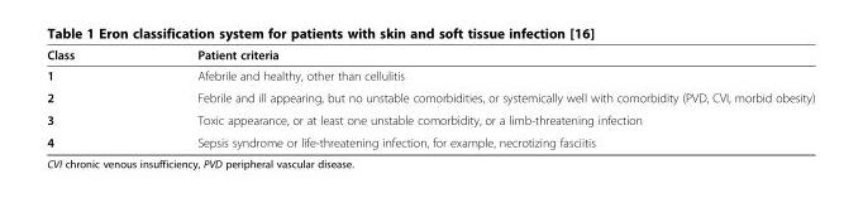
<table><thead><tr><td>Class</td><td>Patient criteria</td></tr></thead><tbody><tr><td>1</td><td>Afebrile and healthy, other than cellulitis</td></tr><tr><td>2</td><td>Febrile and ill appearing, but no unstable comorbidities, or systemically well with comorbidity (PVD, CVI, morbid obesity)</td></tr><tr><td>3</td><td>Toxic appearance, or at least one unstable comorbidity, or a limb-threatening infection</td></tr><tr><td>4</td><td>Sepsis syndrome or life-threatening infection, for example, necrotizing fasciitis</td></tr></tbody></table>